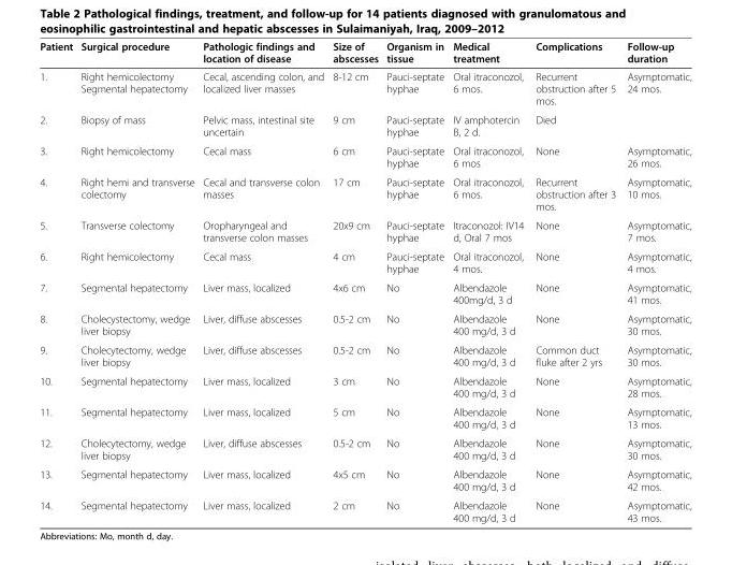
<table><thead><tr><td>Patient</td><td>Surgical procedure</td><td>Pathologic findings and location of disease</td><td>Size of abscesses</td><td>Organism in tissue</td><td>Medical treatment</td><td>Complications</td><td>Follow-up duration</td></tr></thead><tbody><tr><td>1.</td><td>Right hemicolectomy Segmental hepatectomy</td><td>Cecal, ascending colon, and localized liver masses</td><td>8-12 cm</td><td>Pauci-septate hyphae</td><td>Oral itraconozol, 6 mos.</td><td>Recurrent obstruction after 5 mos.</td><td>Asymptomatic, 24 mos.</td></tr><tr><td>2.</td><td>Biopsy of mass</td><td>Pelvic mass, intestinal site uncertain</td><td>9 cm</td><td>Pauci-septate hyphae</td><td>IV amphotercin B, 2 d.</td><td>Died</td><td></td></tr><tr><td>3.</td><td>Right hemicolectomy</td><td>Cecal mass</td><td>6 cm</td><td>Pauci-septate hyphae</td><td>Oral itraconozol, 6 mos</td><td>None</td><td>Asymptomatic, 26 mos.</td></tr><tr><td>4.</td><td>Right hemi and transverse colectomy</td><td>Cecal and transverse colon masses</td><td>17 cm</td><td>Pauci-septate hyphae</td><td>Oral itraconozol, 6 mos.</td><td>Recurrent obstruction after 3 mos.</td><td>Asymptomatic, 10 mos.</td></tr><tr><td>5.</td><td>Transverse colectomy</td><td>Oropharyngeal and transverse colon masses</td><td>20x9 cm</td><td>Pauci-septate hyphae</td><td>Itraconozol: IV14 d, Oral 7 mos</td><td>None</td><td>Asymptomatic, 7 mos.</td></tr><tr><td>6.</td><td>Right hemicolectomy</td><td>Cecal mass</td><td>4 cm</td><td>Pauci-septate hyphae</td><td>Oral itraconozol, 4 mos.</td><td>None</td><td>Asymptomatic, 4 mos.</td></tr><tr><td>7.</td><td>Segmental hepatectomy</td><td>Liver mass, localized</td><td>4x6 cm</td><td>No</td><td>Albendazole 400mg/d, 3 d</td><td>None</td><td>Asymptomatic, 41 mos.</td></tr><tr><td>8.</td><td>Cholecystectomy, wedge liver biopsy</td><td>Liver, diffuse abscesses</td><td>0.5-2 cm</td><td>No</td><td>Albendazole 400 mg/d, 3 d</td><td>None</td><td>Asymptomatic, 30 mos.</td></tr><tr><td>9.</td><td>Cholecytectomy, wedge liver biopsy</td><td>Liver, diffuse abscesses</td><td>0.5-2 cm</td><td>No</td><td>Albendazole 400 mg/d, 3 d</td><td>Common duct fluke after 2 yrs</td><td>Asymptomatic, 30 mos.</td></tr><tr><td>10.</td><td>Segmental hepatectomy</td><td>Liver mass, localized</td><td>3 cm</td><td>No</td><td>Albendazole 400 mg/d, 3 d</td><td>None</td><td>Asymptomatic, 28 mos.</td></tr><tr><td>11.</td><td>Segmental hepatectomy</td><td>Liver mass, localized</td><td>5 cm</td><td>No</td><td>Albendazole 400 mg/d, 3 d</td><td>None</td><td>Asymptomatic, 13 mos.</td></tr><tr><td>12.</td><td>Cholecytectomy, wedge liver biopsy</td><td>Liver, diffuse abscesses</td><td>0.5-2 cm</td><td>No</td><td>Albendazole 400 mg/d, 3 d</td><td>None</td><td>Asymptomatic, 30 mos.</td></tr><tr><td>13.</td><td>Segmental hepatectomy</td><td>Liver mass, localized</td><td>4x5 cm</td><td>No</td><td>Albendazole 400 mg/d, 3 d</td><td>None</td><td>Asymptomatic, 42 mos.</td></tr><tr><td>14.</td><td>Segmental hepatectomy</td><td>Liver mass, localized</td><td>2 cm</td><td>No</td><td>Albendazole 400 mg/d, 3 d</td><td>None</td><td>Asymptomatic, 43 mos.</td></tr></tbody></table>